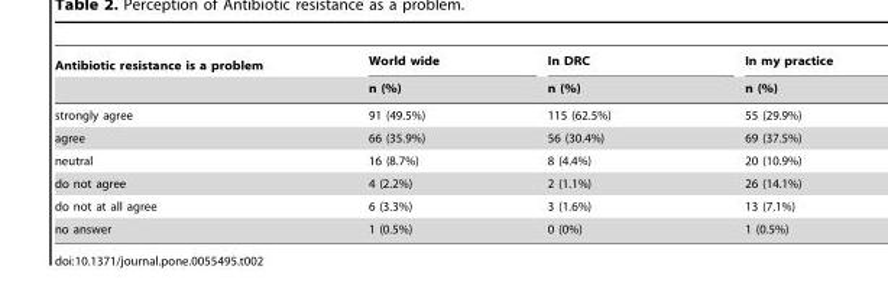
<table><thead><tr><td rowspan="2">Antibiotic resistance is a problem</td><td rowspan="2">World wide n (%)</td><td rowspan="2">In DRC n (%)</td><td rowspan="2">In my practice n (%)</td></tr><tr></tr></thead><tbody><tr><td>strongly agree</td><td>91 (49.5%)</td><td>115 (62.5%)</td><td>55 (29.9%)</td></tr><tr><td>agree</td><td>66 (35.9%)</td><td>56 (30.4%)</td><td>69 (37.5%)</td></tr><tr><td>neutral</td><td>16 (8.7%)</td><td>8 (4.4%)</td><td>20 (10.9%)</td></tr><tr><td>do not agree</td><td>4 (2.2%)</td><td>2 (1.1%)</td><td>26 (14.1%)</td></tr><tr><td>do not at all agree</td><td>6 (3.3%)</td><td>3 (1.6%)</td><td>13 (7.1%)</td></tr><tr><td>no answer</td><td>1 (0.5%)</td><td>0 (0%)</td><td>1 (0.5%)</td></tr></tbody></table>